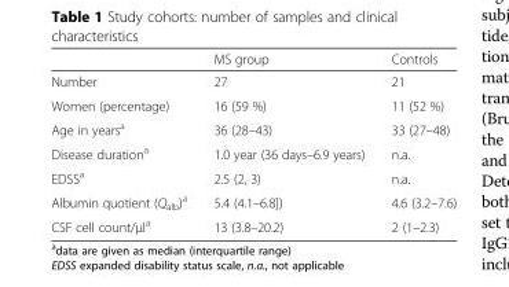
<table><thead><tr><td></td><td>MS group</td><td>Controls</td></tr></thead><tbody><tr><td>Number</td><td>27</td><td>21</td></tr><tr><td>Women (percentage)</td><td>16 (59 %)</td><td>11 (52 %)</td></tr><tr><td>Age in years<sup>a</sup></td><td>36 (28–43)</td><td>33 (27–48)</td></tr><tr><td>Disease duration<sup>a</sup></td><td>1.0 year (36 days–6.9 years)</td><td>n.a.</td></tr><tr><td>EDSS<sup>a</sup></td><td>2.5 (2, 3)</td><td>n.a.</td></tr><tr><td>Albumin quotient (Q<sub>alb</sub>)<sup>a</sup></td><td>5.4 (4.1–6.8])</td><td>4.6 (3.2–7.6)</td></tr><tr><td>CSF cell count/μl<sup>a</sup></td><td>13 (3.8–20.2)</td><td>2 (1–2.3)</td></tr></tbody></table>